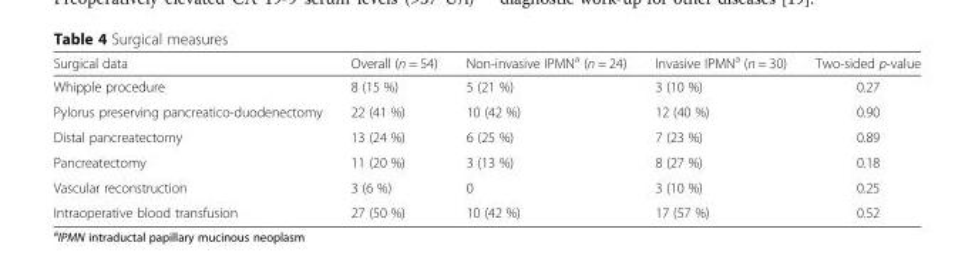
<table><thead><tr><td>Surgical data</td><td>Overall (n = 54)</td><td>Non-invasive IPMN<sup>a</sup> (n = 24)</td><td>Invasive IPMN<sup>a</sup> (n = 30)</td><td>Two-sided p-value</td></tr></thead><tbody><tr><td>Whipple procedure</td><td>8 (15 %)</td><td>5 (21 %)</td><td>3 (10 %)</td><td>0.27</td></tr><tr><td>Pylorus preserving pancreatico-duodenectomy</td><td>22 (41 %)</td><td>10 (42 %)</td><td>12 (40 %)</td><td>0.90</td></tr><tr><td>Distal pancreatectomy</td><td>13 (24 %)</td><td>6 (25 %)</td><td>7 (23 %)</td><td>0.89</td></tr><tr><td>Pancreatectomy</td><td>11 (20 %)</td><td>3 (13 %)</td><td>8 (27 %)</td><td>0.18</td></tr><tr><td>Vascular reconstruction</td><td>3 (6 %)</td><td>0</td><td>3 (10 %)</td><td>0.25</td></tr><tr><td>Intraoperative blood transfusion</td><td>27 (50 %)</td><td>10 (42 %)</td><td>17 (57 %)</td><td>0.52</td></tr></tbody></table>